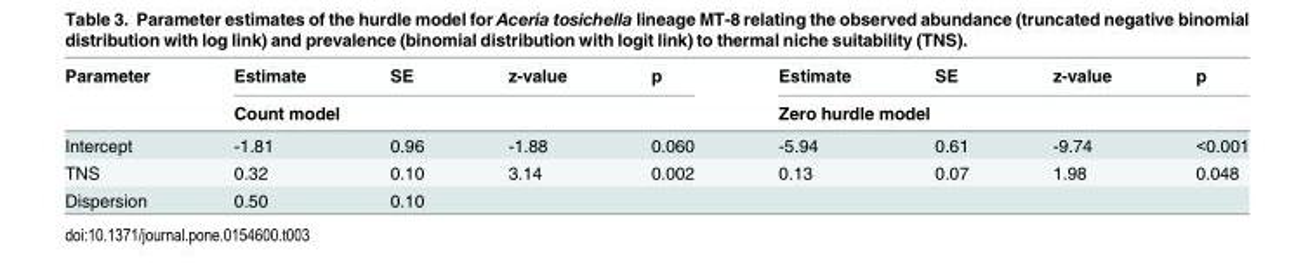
<table><thead><tr><td rowspan="2">Parameter</td><td>Estimate</td><td>SE</td><td>z-value</td><td>p</td><td>Estimate</td><td>SE</td><td>z-value</td><td>p</td></tr><tr><td colspan="4">Count model</td><td colspan="4">Zero hurdle model</td></tr></thead><tbody><tr><td>Intercept</td><td>-1.81</td><td>0.96</td><td>-1.88</td><td>0.060</td><td>-5.94</td><td>0.61</td><td>-9.74</td><td>&lt;0.001</td></tr><tr><td>TNS</td><td>0.32</td><td>0.10</td><td>3.14</td><td>0.002</td><td>0.13</td><td>0.07</td><td>1.98</td><td>0.048</td></tr><tr><td>Dispersion</td><td>0.50</td><td>0.10</td><td></td><td></td><td></td><td></td><td></td><td></td></tr></tbody></table>